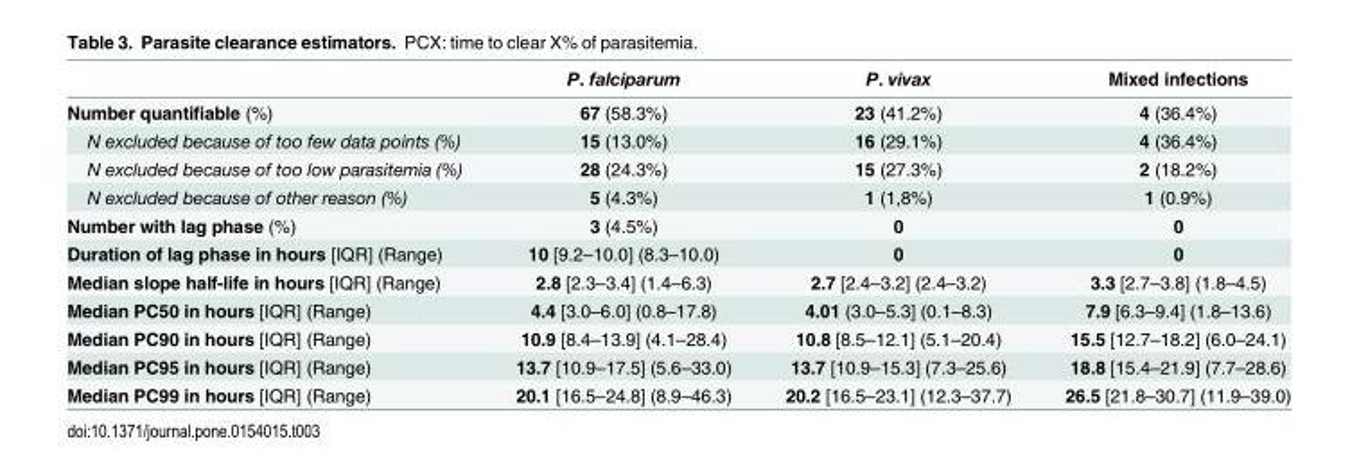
<table><thead><tr><td></td><td>P. falciparum</td><td>P. vivax</td><td>Mixed infections</td></tr></thead><tbody><tr><td>Number quantifiable (%)</td><td>67 (58.3%)</td><td>23 (41.2%)</td><td>4 (36.4%)</td></tr><tr><td>N excluded because of too few data points (%)</td><td>15 (13.0%)</td><td>16 (29.1%)</td><td>4 (36.4%)</td></tr><tr><td>N excluded because of too low parasitemia (%)</td><td>28 (24.3%)</td><td>15 (27.3%)</td><td>2 (18.2%)</td></tr><tr><td>N excluded because of other reason (%)</td><td>5 (4.3%)</td><td>1 (1,8%)</td><td>1 (0.9%)</td></tr><tr><td>Number with lag phase (%)</td><td>3 (4.5%)</td><td>0</td><td>0</td></tr><tr><td>Duration of lag phase in hours [IQR] (Range)</td><td>10 [9.2–10.0] (8.3–10.0)</td><td>0</td><td>0</td></tr><tr><td>Median slope half-life in hours [IQR] (Range)</td><td>2.8 [2.3–3.4] (1.4–6.3)</td><td>2.7 [2.4–3.2] (2.4–3.2)</td><td>3.3 [2.7–3.8] (1.8–4.5)</td></tr><tr><td>Median PC50 in hours [IQR] (Range)</td><td>4.4 [3.0–6.0] (0.8–17.8)</td><td>4.01 (3.0–5.3] (0.1–8.3)</td><td>7.9 [6.3–9.4] (1.8–13.6)</td></tr><tr><td>Median PC90 in hours [IQR] (Range)</td><td>10.9 [8.4–13.9] (4.1–28.4)</td><td>10.8 [8.5–12.1] (5.1–20.4)</td><td>15.5 [12.7–18.2] (6.0–24.1)</td></tr><tr><td>Median PC95 in hours [IQR] (Range)</td><td>13.7 [10.9–17.5] (5.6–33.0)</td><td>13.7 [10.9–15.3] (7.3–25.6)</td><td>18.8 [15.4–21.9] (7.7–28.6)</td></tr><tr><td>Median PC99 in hours [IQR] (Range)</td><td>20.1 [16.5–24.8] (8.9–46.3)</td><td>20.2 [16.5–23.1] (12.3–37.7)</td><td>26.5 [21.8–30.7] (11.9–39.0)</td></tr></tbody></table>